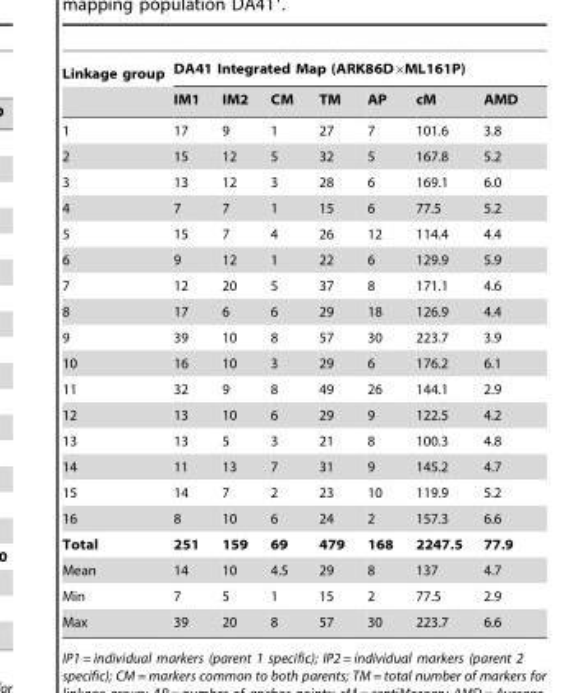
<table><thead><tr><td rowspan="2">Linkage group</td><td colspan="7">DA41 Integrated Map (ARK86D×ML161P)</td></tr><tr><td>IM1</td><td>IM2</td><td>CM</td><td>TM</td><td>AP</td><td>cM</td><td>AMD</td></tr></thead><tbody><tr><td>1</td><td>17</td><td>9</td><td>1</td><td>27</td><td>7</td><td>101.6</td><td>3.8</td></tr><tr><td>2</td><td>15</td><td>12</td><td>5</td><td>32</td><td>5</td><td>167.8</td><td>5.2</td></tr><tr><td>3</td><td>13</td><td>12</td><td>3</td><td>28</td><td>6</td><td>169.1</td><td>6.0</td></tr><tr><td>4</td><td>7</td><td>7</td><td>1</td><td>15</td><td>6</td><td>77.5</td><td>5.2</td></tr><tr><td>5</td><td>15</td><td>7</td><td>4</td><td>26</td><td>12</td><td>114.4</td><td>4.4</td></tr><tr><td>6</td><td>9</td><td>12</td><td>1</td><td>22</td><td>6</td><td>129.9</td><td>5.9</td></tr><tr><td>7</td><td>12</td><td>20</td><td>5</td><td>37</td><td>8</td><td>171.1</td><td>4.6</td></tr><tr><td>8</td><td>17</td><td>6</td><td>6</td><td>29</td><td>18</td><td>126.9</td><td>4.4</td></tr><tr><td>9</td><td>39</td><td>10</td><td>8</td><td>57</td><td>30</td><td>223.7</td><td>3.9</td></tr><tr><td>10</td><td>16</td><td>10</td><td>3</td><td>29</td><td>6</td><td>176.2</td><td>6.1</td></tr><tr><td>11</td><td>32</td><td>9</td><td>8</td><td>49</td><td>26</td><td>144.1</td><td>2.9</td></tr><tr><td>12</td><td>13</td><td>10</td><td>6</td><td>29</td><td>9</td><td>122.5</td><td>4.2</td></tr><tr><td>13</td><td>13</td><td>5</td><td>3</td><td>21</td><td>8</td><td>100.3</td><td>4.8</td></tr><tr><td>14</td><td>11</td><td>13</td><td>7</td><td>31</td><td>9</td><td>145.2</td><td>4.7</td></tr><tr><td>15</td><td>14</td><td>7</td><td>2</td><td>23</td><td>10</td><td>119.9</td><td>5.2</td></tr><tr><td>16</td><td>8</td><td>10</td><td>6</td><td>24</td><td>2</td><td>157.3</td><td>6.6</td></tr><tr><td>Total</td><td>251</td><td>159</td><td>69</td><td>479</td><td>168</td><td>2247.5</td><td>77.9</td></tr><tr><td>Mean</td><td>14</td><td>10</td><td>4.5</td><td>29</td><td>8</td><td>137</td><td>4.7</td></tr><tr><td>Min</td><td>7</td><td>5</td><td>1</td><td>15</td><td>2</td><td>77.5</td><td>2.9</td></tr><tr><td>Max</td><td>39</td><td>20</td><td>8</td><td>57</td><td>30</td><td>223.7</td><td>6.6</td></tr></tbody></table>